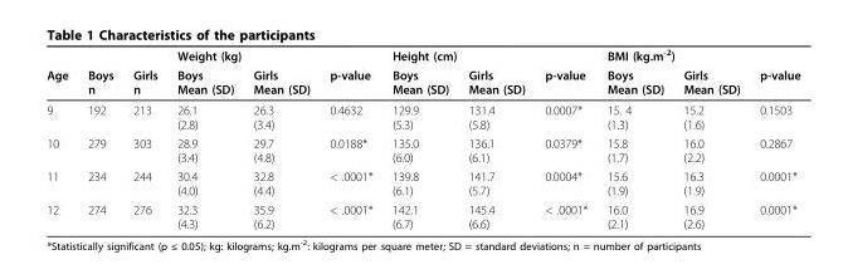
<table><thead><tr><td rowspan="2">Age</td><td rowspan="2">Boys n</td><td rowspan="2">Girls n</td><td colspan="3">Weight (kg)</td><td colspan="3">Height (cm)</td><td colspan="3">BMI (kg.m<sup>-2</sup>)</td></tr><tr><td>Boys Mean (SD)</td><td>Girls Mean (SD)</td><td>p-value</td><td>Boys Mean (SD)</td><td>Girls Mean (SD)</td><td>p-value</td><td>Boys Mean (SD)</td><td>Girls Mean (SD)</td><td>p-value</td></tr></thead><tbody><tr><td>9</td><td>192</td><td>213</td><td>26.1 (2.8)</td><td>26.3 (3.4)</td><td>0.4632</td><td>129.9 (5.3)</td><td>131.4 (5.8)</td><td>0.0007*</td><td>15. 4 (1.3)</td><td>15.2 (1.6)</td><td>0.1503</td></tr><tr><td>10</td><td>279</td><td>303</td><td>28.9 (3.4)</td><td>29.7 (4.8)</td><td>0.0188*</td><td>135.0 (6.0)</td><td>136.1 (6.1)</td><td>0.0379*</td><td>15.8 (1.7)</td><td>16.0 (2.2)</td><td>0.2867</td></tr><tr><td>11</td><td>234</td><td>244</td><td>30.4 (4.0)</td><td>32.8 (4.4)</td><td>&lt; .0001*</td><td>139.8 (6.1)</td><td>141.7 (5.7)</td><td>0.0004*</td><td>15.6 (1.9)</td><td>16.3 (1.9)</td><td>0.0001*</td></tr><tr><td>12</td><td>274</td><td>276</td><td>32.3 (4.3)</td><td>35.9 (6.2)</td><td>&lt; .0001*</td><td>142.1 (6.7)</td><td>145.4 (6.6)</td><td>&lt; .0001*</td><td>16.0 (2.1)</td><td>16.9 (2.6)</td><td>0.0001*</td></tr></tbody></table>